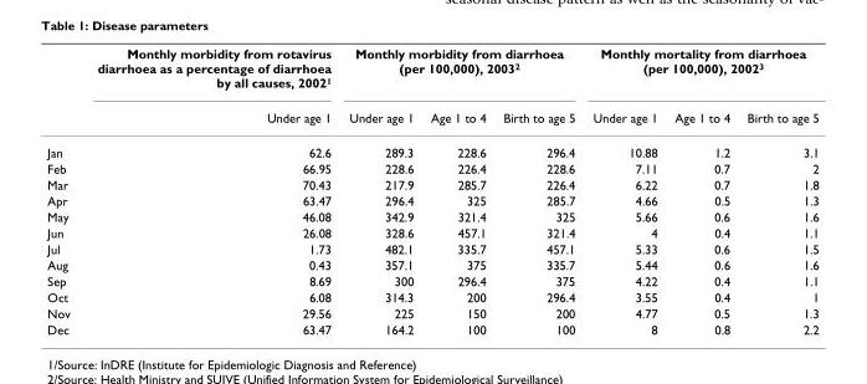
<table><thead><tr><td rowspan="2"></td><td rowspan="2">Monthly morbidity from rotavirus diarrhoea as a percentage of diarrhoea by all causes, 2002<sup>1</sup> Under age 1</td><td colspan="3">Monthly morbidity from diarrhoea (per 100,000), 2003<sup>2</sup></td><td colspan="3">Monthly mortality from diarrhoea (per 100,000), 2002<sup>3</sup></td></tr><tr><td>Under age 1</td><td>Age 1 to 4</td><td>Birth to age 5</td><td>Under age 1</td><td>Age 1 to 4</td><td>Birth to age 5</td></tr></thead><tbody><tr><td>Jan</td><td>62.6</td><td>289.3</td><td>228.6</td><td>296.4</td><td>10.88</td><td>1.2</td><td>3.1</td></tr><tr><td>Feb</td><td>66.95</td><td>228.6</td><td>226.4</td><td>228.6</td><td>7.11</td><td>0.7</td><td>2</td></tr><tr><td>Mar</td><td>70.43</td><td>217.9</td><td>285.7</td><td>226.4</td><td>6.22</td><td>0.7</td><td>1.8</td></tr><tr><td>Apr</td><td>63.47</td><td>296.4</td><td>325</td><td>285.7</td><td>4.66</td><td>0.5</td><td>1.3</td></tr><tr><td>May</td><td>46.08</td><td>342.9</td><td>321.4</td><td>325</td><td>5.66</td><td>0.6</td><td>1.6</td></tr><tr><td>Jun</td><td>26.08</td><td>328.6</td><td>457.1</td><td>321.4</td><td>4</td><td>0.4</td><td>1.1</td></tr><tr><td>Jul</td><td>1.73</td><td>482.1</td><td>335.7</td><td>457.1</td><td>5.33</td><td>0.6</td><td>1.5</td></tr><tr><td>Aug</td><td>0.43</td><td>357.1</td><td>375</td><td>335.7</td><td>5.44</td><td>0.6</td><td>1.6</td></tr><tr><td>Sep</td><td>8.69</td><td>300</td><td>296.4</td><td>375</td><td>4.22</td><td>0.4</td><td>1.1</td></tr><tr><td>Oct</td><td>6.08</td><td>314.3</td><td>200</td><td>296.4</td><td>3.55</td><td>0.4</td><td>1</td></tr><tr><td>Nov</td><td>29.56</td><td>225</td><td>150</td><td>200</td><td>4.77</td><td>0.5</td><td>1.3</td></tr><tr><td>Dec</td><td>63.47</td><td>164.2</td><td>100</td><td>100</td><td>8</td><td>0.8</td><td>2.2</td></tr></tbody></table>